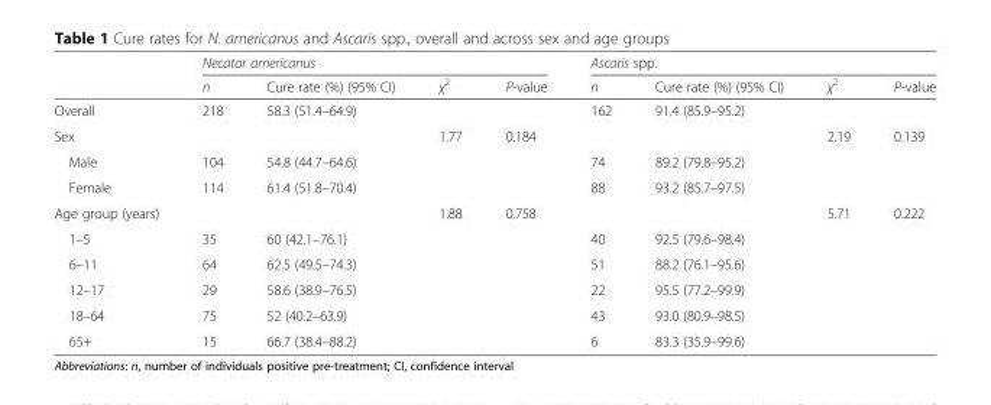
<table><thead><tr><td rowspan="2"></td><td colspan="4">Necator americanus</td><td colspan="4">Ascaris spp.</td></tr><tr><td>n</td><td>Cure rate (%) (95% CI)</td><td>χ<sup>2</sup></td><td>P-value</td><td>n</td><td>Cure rate (%) (95% CI)</td><td>χ<sup>2</sup></td><td>P-value</td></tr></thead><tbody><tr><td>Overall</td><td>218</td><td>58.3 (51.4–64.9)</td><td></td><td></td><td>162</td><td>91.4 (85.9–95.2)</td><td></td><td></td></tr><tr><td>Sex</td><td></td><td></td><td>1.77</td><td>0.184</td><td></td><td></td><td>2.19</td><td>0.139</td></tr><tr><td>Male</td><td>104</td><td>54.8 (44.7–64.6)</td><td></td><td></td><td>74</td><td>89.2 (79.8–95.2)</td><td></td><td></td></tr><tr><td>Female</td><td>114</td><td>61.4 (51.8–70.4)</td><td></td><td></td><td>88</td><td>93.2 (85.7–97.5)</td><td></td><td></td></tr><tr><td>Age group (years)</td><td></td><td></td><td>1.88</td><td>0.758</td><td></td><td></td><td>5.71</td><td>0.222</td></tr><tr><td>1–5</td><td>35</td><td>60 (42.1–76.1)</td><td></td><td></td><td>40</td><td>92.5 (79.6–98.4)</td><td></td><td></td></tr><tr><td>6–11</td><td>64</td><td>62.5 (49.5–74.3)</td><td></td><td></td><td>51</td><td>88.2 (76.1–95.6)</td><td></td><td></td></tr><tr><td>12–17</td><td>29</td><td>58.6 (38.9–76.5)</td><td></td><td></td><td>22</td><td>95.5 (77.2–99.9)</td><td></td><td></td></tr><tr><td>18–64</td><td>75</td><td>52 (40.2–63.9)</td><td></td><td></td><td>43</td><td>93.0 (80.9–98.5)</td><td></td><td></td></tr><tr><td>65+</td><td>15</td><td>66.7 (38.4–88.2)</td><td></td><td></td><td>6</td><td>83.3 (35.9–99.6)</td><td></td><td></td></tr></tbody></table>